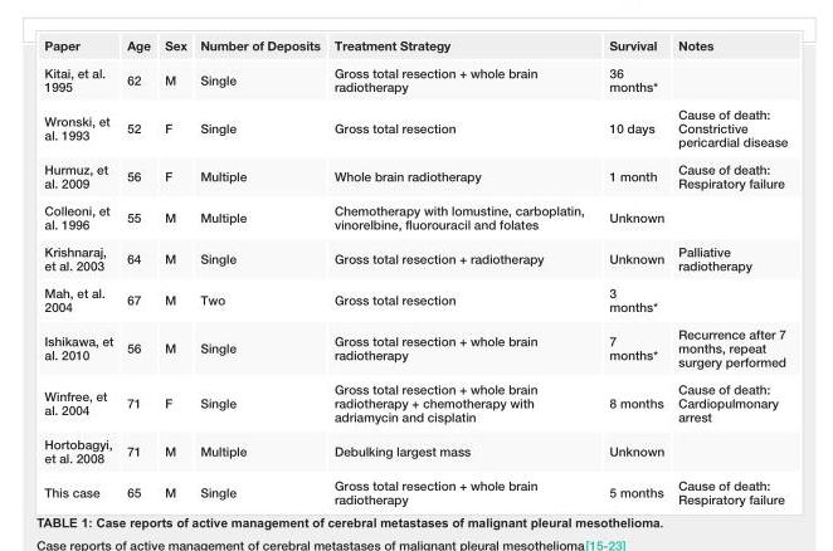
<table><tbody><tr><td>Paper</td><td>Age</td><td>Sex</td><td>Number of Deposits</td><td>Treatment Strategy</td><td>Survival</td><td>Notes</td></tr><tr><td>Kitai, et al. 1995</td><td>62</td><td>M</td><td>Single</td><td>Gross total resection + whole brain radiotherapy</td><td>36 months*</td><td></td></tr><tr><td>Wronski, et al. 1993</td><td>52</td><td>F</td><td>Single</td><td>Gross total resection</td><td>10 days</td><td>Cause of death: Constrictive pericardial disease</td></tr><tr><td>Hurmuz, et al. 2009</td><td>56</td><td>F</td><td>Multiple</td><td>Whole brain radiotherapy</td><td>1 month</td><td>Cause of death: Respiratory failure</td></tr><tr><td>Colleoni, et al. 1996</td><td>55</td><td>M</td><td>Multiple</td><td>Chemotherapy with lomustine, carboplatin, vinorelbine, fluorouracil and folates</td><td>Unknown</td><td></td></tr><tr><td>Krishnaraj, et al. 2003</td><td>64</td><td>M</td><td>Single</td><td>Gross total resection + radiotherapy</td><td>Unknown</td><td>Palliative radiotherapy</td></tr><tr><td>Mah, et al. 2004</td><td>67</td><td>M</td><td>Two</td><td>Gross total resection</td><td>3 months*</td><td></td></tr><tr><td>Ishikawa, et al. 2010</td><td>56</td><td>M</td><td>Single</td><td>Gross total resection + whole brain radiotherapy</td><td>7 months*</td><td>Recurrence after 7 months, repeat surgery performed</td></tr><tr><td>Winfree, et al. 2004</td><td>71</td><td>F</td><td>Single</td><td>Gross total resection + whole brain radiotherapy + chemotherapy with adriamycin and cisplatin</td><td>8 months</td><td>Cause of death: Cardiopulmonary arrest</td></tr><tr><td>Hortobagyi, et al. 2008</td><td>71</td><td>M</td><td>Multiple</td><td>Debulking largest mass</td><td>Unknown</td><td></td></tr><tr><td>This case</td><td>65</td><td>M</td><td>Single</td><td>Gross total resection + whole brain radiotherapy</td><td>5 months</td><td>Cause of death: Respiratory failure</td></tr></tbody></table>